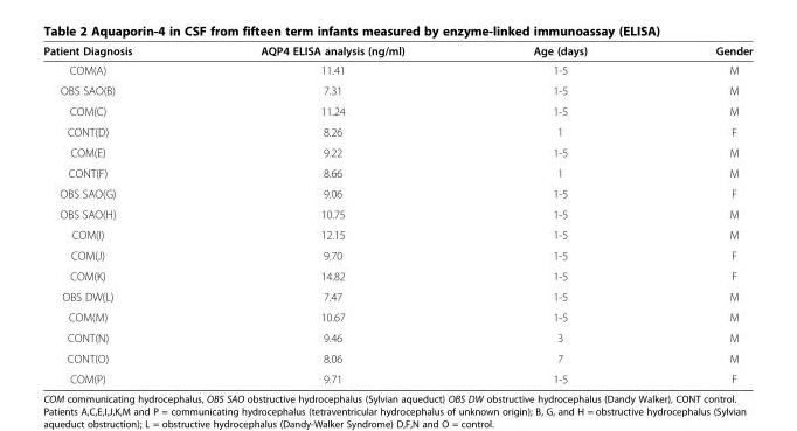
<table><thead><tr><td>Patient Diagnosis</td><td>AQP4 ELISA analysis (ng/ml)</td><td>Age (days)</td><td>Gender</td></tr></thead><tbody><tr><td>COM(A)</td><td>11.41</td><td>1-5</td><td>M</td></tr><tr><td>OBS SAO(B)</td><td>7.31</td><td>1-5</td><td>M</td></tr><tr><td>COM(C)</td><td>11.24</td><td>1-5</td><td>M</td></tr><tr><td>CONT(D)</td><td>8.26</td><td>1</td><td>F</td></tr><tr><td>COM(E)</td><td>9.22</td><td>1-5</td><td>M</td></tr><tr><td>CONT(F)</td><td>8.66</td><td>1</td><td>M</td></tr><tr><td>OBS SAO(G)</td><td>9.06</td><td>1-5</td><td>F</td></tr><tr><td>OBS SAO(H)</td><td>10.75</td><td>1-5</td><td>M</td></tr><tr><td>COM(I)</td><td>12.15</td><td>1-5</td><td>M</td></tr><tr><td>COM(J)</td><td>9.70</td><td>1-5</td><td>F</td></tr><tr><td>COM(K)</td><td>14.82</td><td>1-5</td><td>F</td></tr><tr><td>OBS DW(L)</td><td>7.47</td><td>1-5</td><td>M</td></tr><tr><td>COM(M)</td><td>10.67</td><td>1-5</td><td>M</td></tr><tr><td>CONT(N)</td><td>9.46</td><td>3</td><td>M</td></tr><tr><td>CONT(O)</td><td>8.06</td><td>7</td><td>M</td></tr><tr><td>COM(P)</td><td>9.71</td><td>1-5</td><td>F</td></tr></tbody></table>